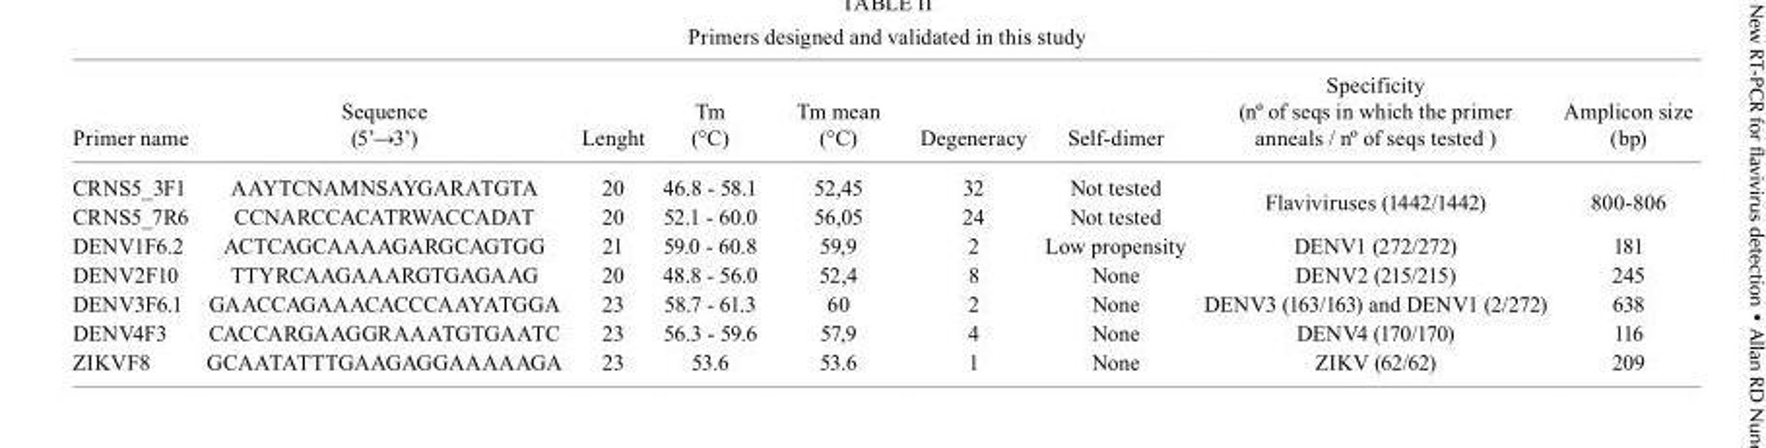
<table><thead><tr><td>Primer name</td><td>Sequence (5’→3’)</td><td>Lenght</td><td>Tm (°C)</td><td>Tm mean (°C)</td><td>Degeneracy</td><td>Self-dimer</td><td>Specificity (nº of seqs in which the primer anneals / nº of seqs tested )</td><td>Amplicon size (bp)</td></tr></thead><tbody><tr><td>CRNS5_3F1</td><td>AAYTCNAMNSAYGARATGTA</td><td>20</td><td>46.8 - 58.1</td><td>52,45</td><td>32</td><td>Not tested</td><td rowspan="2">Flaviviruses (1442/1442)</td><td rowspan="2">800-806</td></tr><tr><td>CRNS5_7R6</td><td>CCNARCCACATRWACCADAT</td><td>20</td><td>52.1 - 60.0</td><td>56,05</td><td>24</td><td>Not tested</td></tr><tr><td>DENV1F6.2</td><td>ACTCAGCAAAAGARGCAGTGG</td><td>21</td><td>59.0 - 60.8</td><td>59,9</td><td>2</td><td>Low propensity</td><td>DENV1 (272/272)</td><td>181</td></tr><tr><td>DENV2F10</td><td>TTYRCAAGAAARGTGAGAAG</td><td>20</td><td>48.8 - 56.0</td><td>52,4</td><td>8</td><td>None</td><td>DENV2 (215/215)</td><td>245</td></tr><tr><td>DENV3F6.1</td><td>GAACCAGAAACACCCAAYATGGA</td><td>23</td><td>58.7 - 61.3</td><td>60</td><td>2</td><td>None</td><td>DENV3 (163/163) and DENV1 (2/272)</td><td>638</td></tr><tr><td>DENV4F3</td><td>CACCARGAAGGRAAATGTGAATC</td><td>23</td><td>56.3 - 59.6</td><td>57,9</td><td>4</td><td>None</td><td>DENV4 (170/170)</td><td>116</td></tr><tr><td>ZIKVF8</td><td>GCAATATTTGAAGAGGAAAAAGA</td><td>23</td><td>53.6</td><td>53.6</td><td>1</td><td>None</td><td>ZIKV (62/62)</td><td>209</td></tr></tbody></table>